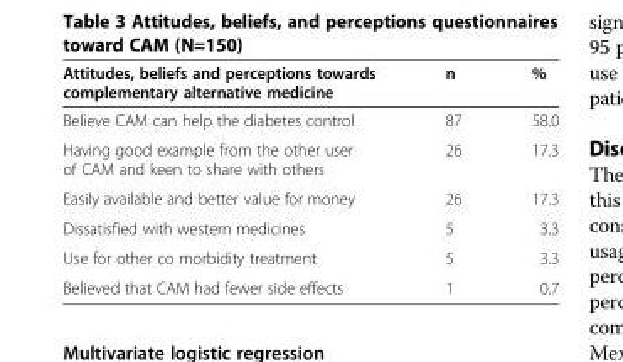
<table><thead><tr><td>Attitudes, beliefs and perceptions towards complementary alternative medicine</td><td>n</td><td>%</td></tr></thead><tbody><tr><td>Believe CAM can help the diabetes control</td><td>87</td><td>58.0</td></tr><tr><td>Having good example from the other user of CAM and keen to share with others</td><td>26</td><td>17.3</td></tr><tr><td>Easily available and better value for money</td><td>26</td><td>17.3</td></tr><tr><td>Dissatisfied with western medicines</td><td>5</td><td>3.3</td></tr><tr><td>Use for other co morbidity treatment</td><td>5</td><td>3.3</td></tr><tr><td>Believed that CAM had fewer side effects</td><td>1</td><td>0.7</td></tr></tbody></table>